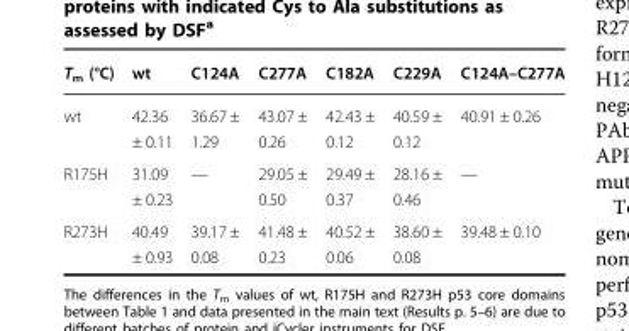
<table><thead><tr><td>T<sub>m</sub> (°C)</td><td>wt</td><td>C124A</td><td>C277A</td><td>C182A</td><td>C229A</td><td>C124A–C277A</td></tr></thead><tbody><tr><td>wt</td><td>42.36 ± 0.11</td><td>36.67 ± 1.29</td><td>43.07 ± 0.26</td><td>42.43 ± 0.12</td><td>40.59 ± 0.12</td><td>40.91 ± 0.26</td></tr><tr><td>R175H</td><td>31.09 ± 0.23</td><td>—</td><td>29.05 ± 0.50</td><td>29.49 ± 0.37</td><td>28.16 ± 0.46</td><td>—</td></tr><tr><td>R273H</td><td>40.49 ± 0.93</td><td>39.17 ± 0.08</td><td>41.48 ± 0.23</td><td>40.52 ± 0.06</td><td>38.60 ± 0.08</td><td>39.48 ± 0.10</td></tr></tbody></table>